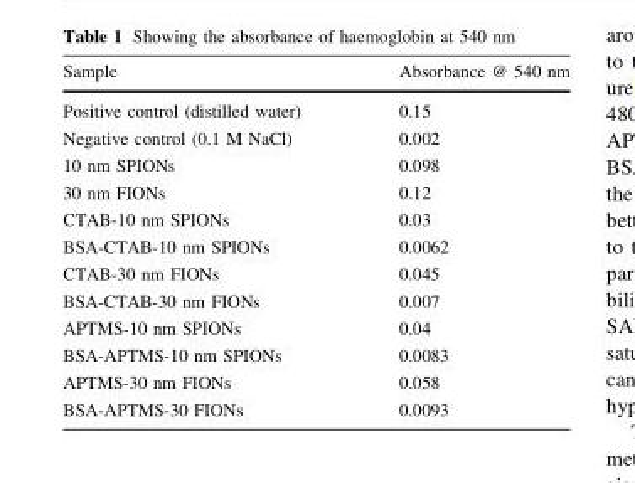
<table><thead><tr><td>Sample</td><td>Absorbance @ 540 nm</td></tr></thead><tbody><tr><td>Positive control (distilled water)</td><td>0.15</td></tr><tr><td>Negative control (0.1 M NaCl)</td><td>0.002</td></tr><tr><td>10 nm SPIONs</td><td>0.098</td></tr><tr><td>30 nm FIONs</td><td>0.12</td></tr><tr><td>CTAB-10 nm SPIONs</td><td>0.03</td></tr><tr><td>BSA-CTAB-10 nm SPIONs</td><td>0.0062</td></tr><tr><td>CTAB-30 nm FIONs</td><td>0.045</td></tr><tr><td>BSA-CTAB-30 nm FIONs</td><td>0.007</td></tr><tr><td>APTMS-10 nm SPIONs</td><td>0.04</td></tr><tr><td>BSA-APTMS-10 nm SPIONs</td><td>0.0083</td></tr><tr><td>APTMS-30 nm FIONs</td><td>0.058</td></tr><tr><td>BSA-APTMS-30 FIONs</td><td>0.0093</td></tr></tbody></table>